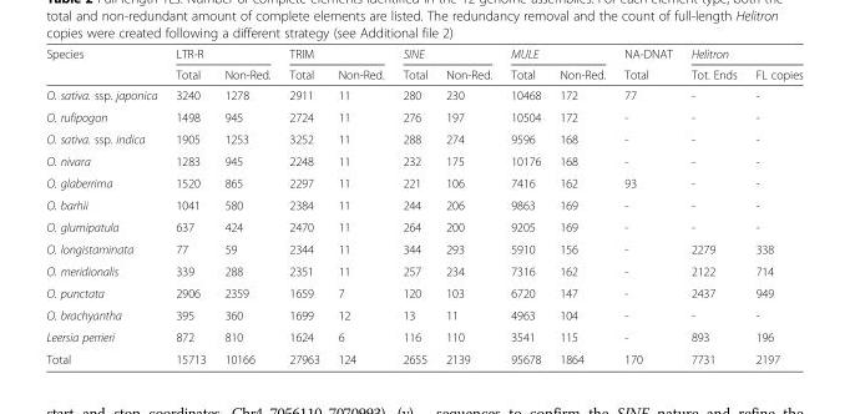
<table><thead><tr><td rowspan="2">Species</td><td colspan="2">LTR-R</td><td colspan="2">TRIM</td><td colspan="2">SINE</td><td colspan="2">MULE</td><td rowspan="2">NA-DNAT Total</td><td colspan="2">Helitron</td></tr><tr><td>Total</td><td>Non-Red.</td><td>Total</td><td>Non-Red.</td><td>Total</td><td>Non-Red.</td><td>Total</td><td>Non-Red.</td><td>Tot. Ends</td><td>FL copies</td></tr></thead><tbody><tr><td>O. sativa. ssp. japonica</td><td>3240</td><td>1278</td><td>2911</td><td>11</td><td>280</td><td>230</td><td>10468</td><td>172</td><td>77</td><td>-</td><td>-</td></tr><tr><td>O. rufipogon</td><td>1498</td><td>945</td><td>2724</td><td>11</td><td>276</td><td>197</td><td>10504</td><td>172</td><td>-</td><td>-</td><td>-</td></tr><tr><td>O. sativa. ssp. indica</td><td>1905</td><td>1253</td><td>3252</td><td>11</td><td>288</td><td>274</td><td>9596</td><td>168</td><td>-</td><td>-</td><td>-</td></tr><tr><td>O. nivara</td><td>1283</td><td>945</td><td>2248</td><td>11</td><td>232</td><td>175</td><td>10176</td><td>168</td><td>-</td><td>-</td><td>-</td></tr><tr><td>O. glaberrima</td><td>1520</td><td>865</td><td>2297</td><td>11</td><td>221</td><td>106</td><td>7416</td><td>162</td><td>93</td><td>-</td><td>-</td></tr><tr><td>O. barhii</td><td>1041</td><td>580</td><td>2384</td><td>11</td><td>244</td><td>206</td><td>9863</td><td>169</td><td>-</td><td>-</td><td>-</td></tr><tr><td>O. glumipatula</td><td>637</td><td>424</td><td>2470</td><td>11</td><td>264</td><td>200</td><td>9205</td><td>169</td><td>-</td><td>-</td><td>-</td></tr><tr><td>O. longistaminata</td><td>77</td><td>59</td><td>2344</td><td>11</td><td>344</td><td>293</td><td>5910</td><td>156</td><td>-</td><td>2279</td><td>338</td></tr><tr><td>O. meridionalis</td><td>339</td><td>288</td><td>2351</td><td>11</td><td>257</td><td>234</td><td>7316</td><td>162</td><td>-</td><td>2122</td><td>714</td></tr><tr><td>O. punctata</td><td>2906</td><td>2359</td><td>1659</td><td>7</td><td>120</td><td>103</td><td>6720</td><td>147</td><td>-</td><td>2437</td><td>949</td></tr><tr><td>O. brachyantha</td><td>395</td><td>360</td><td>1699</td><td>12</td><td>13</td><td>11</td><td>4963</td><td>104</td><td>-</td><td>-</td><td>-</td></tr><tr><td>Leersia perrieri</td><td>872</td><td>810</td><td>1624</td><td>6</td><td>116</td><td>110</td><td>3541</td><td>115</td><td>-</td><td>893</td><td>196</td></tr><tr><td>Total</td><td>15713</td><td>10166</td><td>27963</td><td>124</td><td>2655</td><td>2139</td><td>95678</td><td>1864</td><td>170</td><td>7731</td><td>2197</td></tr></tbody></table>